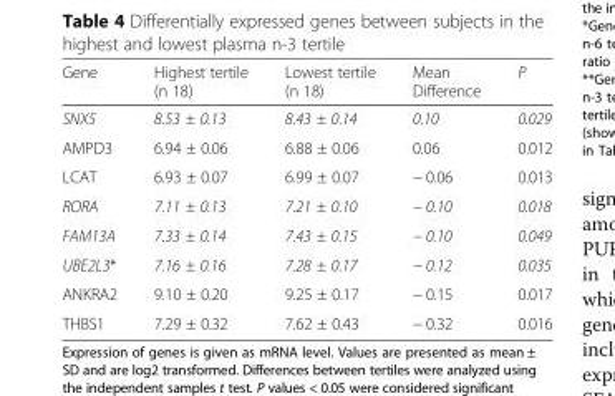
<table><thead><tr><td>Gene</td><td>Highest tertile (n 18)</td><td>Lowest tertile (n 18)</td><td>Mean Difference</td><td>P</td></tr></thead><tbody><tr><td>SNX5</td><td>8.53 ± 0.13</td><td>8.43 ± 0.14</td><td>0.10</td><td>0.029</td></tr><tr><td>AMPD3</td><td>6.94 ± 0.06</td><td>6.88 ± 0.06</td><td>0.06</td><td>0.012</td></tr><tr><td>LCAT</td><td>6.93 ± 0.07</td><td>6.99 ± 0.07</td><td>− 0.06</td><td>0.013</td></tr><tr><td>RORA</td><td>7.11 ± 0.13</td><td>7.21 ± 0.10</td><td>− 0.10</td><td>0.018</td></tr><tr><td>FAM13A</td><td>7.33 ± 0.14</td><td>7.43 ± 0.15</td><td>− 0.10</td><td>0.049</td></tr><tr><td>UBE2L3*</td><td>7.16 ± 0.16</td><td>7.28 ± 0.17</td><td>− 0.12</td><td>0.035</td></tr><tr><td>ANKRA2</td><td>9.10 ± 0.20</td><td>9.25 ± 0.17</td><td>− 0.15</td><td>0.017</td></tr><tr><td>THBS1</td><td>7.29 ± 0.32</td><td>7.62 ± 0.43</td><td>− 0.32</td><td>0.016</td></tr></tbody></table>